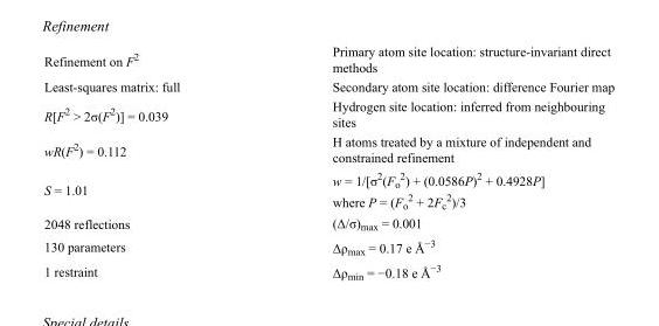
<table><tbody><tr><td>Refinement on F<sup>2</sup></td><td>Primary atom site location: structure-invariant direct methods</td></tr><tr><td>Least-squares matrix: full</td><td>Secondary atom site location: difference Fourier map</td></tr><tr><td>R[F<sup>2</sup> &gt; 2σ(F<sup>2</sup>)] = 0.039</td><td>Hydrogen site location: inferred from neighbouring sites</td></tr><tr><td>wR(F<sup>2</sup>) = 0.112</td><td>H atoms treated by a mixture of independent and constrained refinement</td></tr><tr><td>S = 1.01</td><td>w = 1/[σ<sup>2</sup>(F<sub>o</sub> <sup>2</sup>) + (0.0586P)<sup>2</sup> + 0.4928P] where P = (F<sub>o</sub> <sup>2</sup> + 2F<sub>c</sub> <sup>2</sup>)/3</td></tr><tr><td>2048 reflections</td><td>(Δ/σ)<sub>max</sub> = 0.001</td></tr><tr><td>130 parameters</td><td>Δρ<sub>max</sub> = 0.17 e Å<sup>−3</sup></td></tr><tr><td>1 restraint</td><td>Δρ<sub>min</sub> = −0.18 e Å<sup>−3</sup></td></tr></tbody></table>